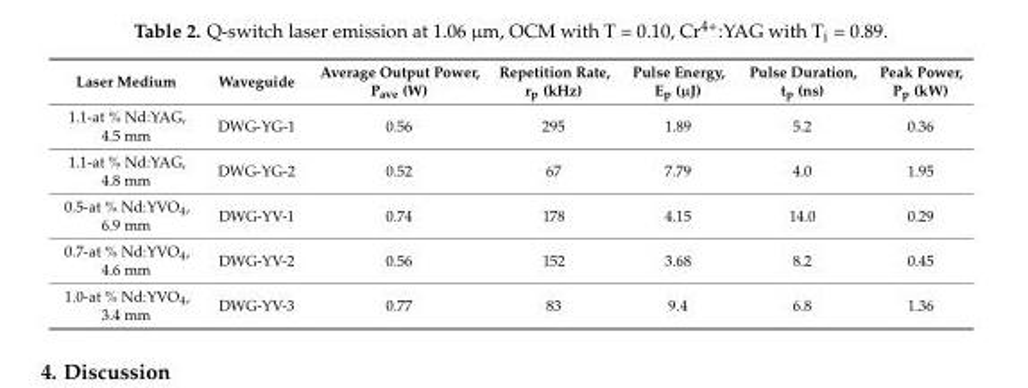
<table><thead><tr><td>Laser Medium</td><td>Waveguide</td><td>Average Output Power, P<sub>ave</sub> (W)</td><td>Repetition Rate, r<sub>p</sub> (kHz)</td><td>Pulse Energy, E<sub>p</sub> (µJ)</td><td>Pulse Duration, t<sub>p</sub> (ns)</td><td>Peak Power, P<sub>p</sub> (kW)</td></tr></thead><tbody><tr><td>1.1-at % Nd:YAG, 4.5 mm</td><td>DWG-YG-1</td><td>0.56</td><td>295</td><td>1.89</td><td>5.2</td><td>0.36</td></tr><tr><td>1.1-at % Nd:YAG, 4.8 mm</td><td>DWG-YG-2</td><td>0.52</td><td>67</td><td>7.79</td><td>4.0</td><td>1.95</td></tr><tr><td>0.5-at % Nd:YVO<sub>4</sub>, 6.9 mm</td><td>DWG-YV-1</td><td>0.74</td><td>178</td><td>4.15</td><td>14.0</td><td>0.29</td></tr><tr><td>0.7-at % Nd:YVO<sub>4</sub>, 4.6 mm</td><td>DWG-YV-2</td><td>0.56</td><td>152</td><td>3.68</td><td>8.2</td><td>0.45</td></tr><tr><td>1.0-at % Nd:YVO<sub>4</sub>, 3.4 mm</td><td>DWG-YV-3</td><td>0.77</td><td>83</td><td>9.4</td><td>6.8</td><td>1.36</td></tr></tbody></table>